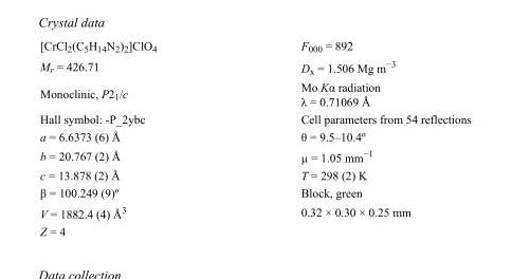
<table><tbody><tr><td>[CrCl<sub>2</sub>(C<sub>5</sub>H<sub>14</sub>N<sub>2</sub>)<sub>2</sub>]ClO<sub>4</sub></td><td>F000 = 892</td></tr><tr><td>M<sub>r</sub> = 426.71</td><td>D<sub>x</sub> = 1.506 Mg m<sup>−3</sup></td></tr><tr><td>Monoclinic, P2<sub>1</sub>/c</td><td>Mo Kα radiation λ = 0.71069 Å</td></tr><tr><td>Hall symbol: -P_2ybc</td><td>Cell parameters from 54 reflections</td></tr><tr><td>a = 6.6373 (6) Å</td><td>θ = 9.5–10.4º</td></tr><tr><td>b = 20.767 (2) Å</td><td>µ = 1.05 mm<sup>−1</sup></td></tr><tr><td>c = 13.878 (2) Å</td><td>T = 298 (2) K</td></tr><tr><td>β = 100.249 (9)º</td><td>Block, green</td></tr><tr><td>V = 1882.4 (4) Å<sup>3</sup></td><td>0.32 × 0.30 × 0.25 mm</td></tr><tr><td>Z = 4</td><td></td></tr></tbody></table>